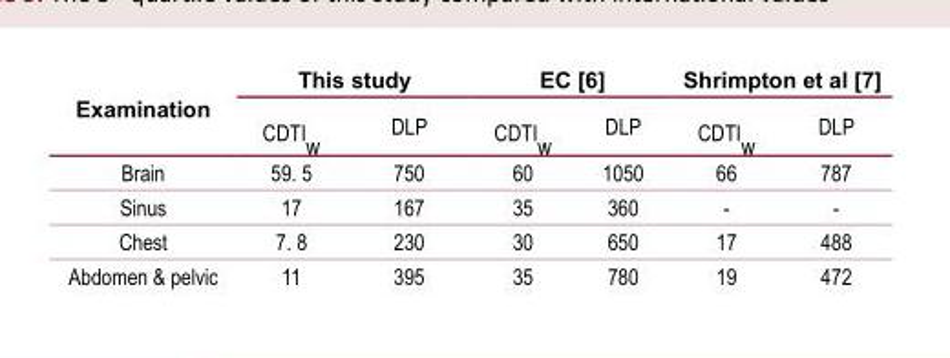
<table><thead><tr><td rowspan="2">Examination</td><td colspan="2">This study</td><td colspan="2">EC [6]</td><td colspan="2">Shrimpton et al [7]</td></tr><tr><td>CDTI<sub>w</sub></td><td>DLP</td><td>CDTI<sub>w</sub></td><td>DLP</td><td>CDTI<sub>w</sub></td><td>DLP</td></tr></thead><tbody><tr><td>Brain</td><td>59. 5</td><td>750</td><td>60</td><td>1050</td><td>66</td><td>787</td></tr><tr><td>Sinus</td><td>17</td><td>167</td><td>35</td><td>360</td><td>-</td><td>-</td></tr><tr><td>Chest</td><td>7. 8</td><td>230</td><td>30</td><td>650</td><td>17</td><td>488</td></tr><tr><td>Abdomen &amp; pelvic</td><td>11</td><td>395</td><td>35</td><td>780</td><td>19</td><td>472</td></tr></tbody></table>